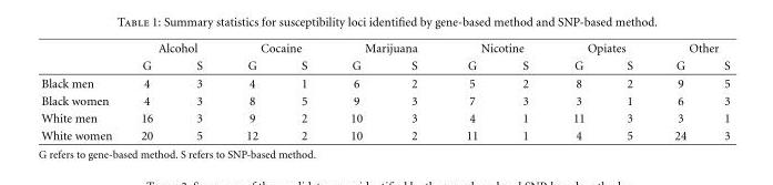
<table><thead><tr><td rowspan="2"></td><td colspan="2">Alcohol</td><td colspan="2">Cocaine</td><td colspan="2">Marijuana</td><td colspan="2">Nicotine</td><td colspan="2">Opiates</td><td colspan="2">Other</td></tr><tr><td>G</td><td>S</td><td>G</td><td>S</td><td>G</td><td>S</td><td>G</td><td>S</td><td>G</td><td>S</td><td>G</td><td>S</td></tr></thead><tbody><tr><td>Black men</td><td>4</td><td>3</td><td>4</td><td>1</td><td>6</td><td>2</td><td>5</td><td>2</td><td>8</td><td>2</td><td>9</td><td>5</td></tr><tr><td>Black women</td><td>4</td><td>3</td><td>8</td><td>5</td><td>9</td><td>3</td><td>7</td><td>3</td><td>3</td><td>1</td><td>6</td><td>3</td></tr><tr><td>White men</td><td>16</td><td>3</td><td>9</td><td>2</td><td>10</td><td>3</td><td>4</td><td>1</td><td>11</td><td>3</td><td>3</td><td>1</td></tr><tr><td>White women</td><td>20</td><td>5</td><td>12</td><td>2</td><td>10</td><td>2</td><td>11</td><td>1</td><td>4</td><td>5</td><td>24</td><td>3</td></tr></tbody></table>